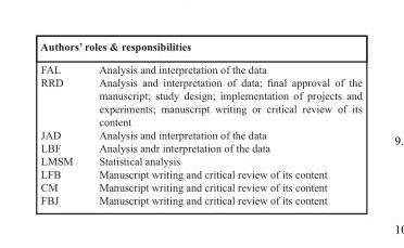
<table><thead><tr><td colspan="2">Authors’ roles &amp; responsibilities</td></tr><tr><td>FAL</td><td>Analysis and interpretation of the data</td></tr></thead><tbody><tr><td>RRD</td><td>Analysis and interpretation of data; final approval of the manuscript; study design; implementation of projects and experiments; manuscript writing or critical review of its content</td></tr><tr><td>JAD</td><td>Analysis and interpretation of the data</td></tr><tr><td>LBF</td><td>Analysis andr interpretation of the data</td></tr><tr><td>LMSM</td><td>Statistical analysis</td></tr><tr><td>LFB</td><td>Manuscript writing and critical review of its content</td></tr><tr><td>CM</td><td>Manuscript writing and critical review of its content</td></tr><tr><td>FBJ</td><td>Manuscript writing and critical review of its content</td></tr></tbody></table>